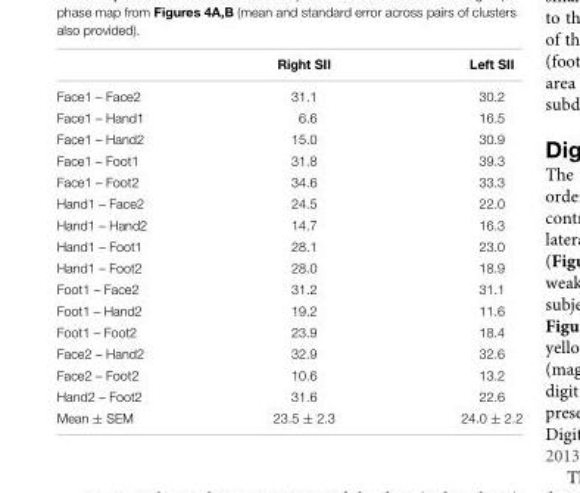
<table><thead><tr><td></td><td>Right SII</td><td>Left SII</td></tr></thead><tbody><tr><td>Face1 – Face2</td><td>31.1</td><td>30.2</td></tr><tr><td>Face1 – Hand1</td><td>6.6</td><td>16.5</td></tr><tr><td>Face1 – Hand2</td><td>15.0</td><td>30.9</td></tr><tr><td>Face1 – Foot1</td><td>31.8</td><td>39.3</td></tr><tr><td>Face1 – Foot2</td><td>34.6</td><td>33.3</td></tr><tr><td>Hand1 – Face2</td><td>24.5</td><td>22.0</td></tr><tr><td>Hand1 – Hand2</td><td>14.7</td><td>16.3</td></tr><tr><td>Hand1 – Foot1</td><td>28.1</td><td>23.0</td></tr><tr><td>Hand1 – Foot2</td><td>28.0</td><td>18.9</td></tr><tr><td>Foot1 – Face2</td><td>31.2</td><td>31.1</td></tr><tr><td>Foot1 – Hand2</td><td>19.2</td><td>11.6</td></tr><tr><td>Foot1 – Foot2</td><td>23.9</td><td>18.4</td></tr><tr><td>Face2 – Hand2</td><td>32.9</td><td>32.6</td></tr><tr><td>Face2 – Foot2</td><td>10.6</td><td>13.2</td></tr><tr><td>Hand2 – Foot2</td><td>31.6</td><td>22.6</td></tr><tr><td>Mean ± SEM</td><td>23.5 ± 2.3</td><td>24.0 ± 2.2</td></tr></tbody></table>